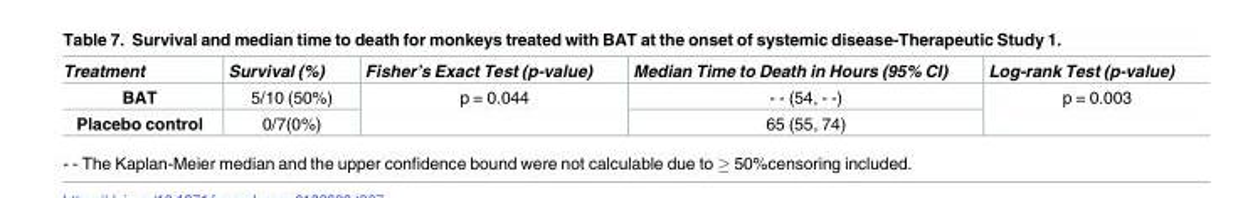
<table><thead><tr><td>Treatment</td><td>Survival (%)</td><td>Fisher’s Exact Test (p-value)</td><td>Median Time to Death in Hours (95% CI)</td><td>Log-rank Test (p-value)</td></tr></thead><tbody><tr><td>BAT</td><td>5/10 (50%)</td><td rowspan="2">p = 0.044</td><td>- - (54, - -)</td><td rowspan="2">p = 0.003</td></tr><tr><td>Placebo control</td><td>0/7(0%)</td><td>65 (55, 74)</td></tr></tbody></table>